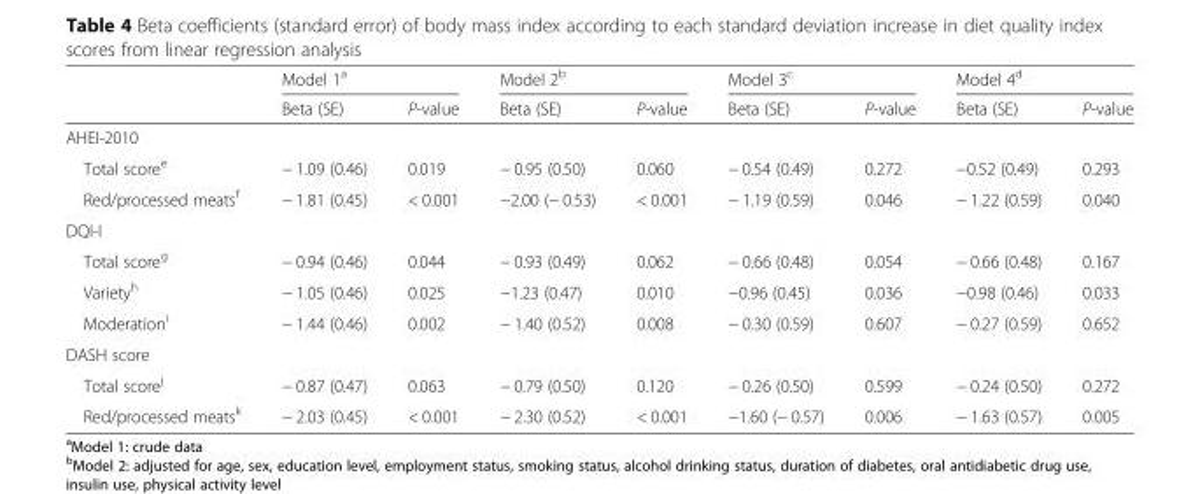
<table><thead><tr><td rowspan="2"></td><td colspan="2">Model 1<sup>a</sup></td><td colspan="2">Model 2<sup>b</sup></td><td colspan="2">Model 3<sup>c</sup></td><td colspan="2">Model 4<sup>d</sup></td></tr><tr><td>Beta (SE)</td><td>P-value</td><td>Beta (SE)</td><td>P-value</td><td>Beta (SE)</td><td>P-value</td><td>Beta (SE)</td><td>P-value</td></tr></thead><tbody><tr><td colspan="9">AHEI-2010</td></tr><tr><td>Total score<sup>e</sup></td><td>− 1.09 (0.46)</td><td>0.019</td><td>− 0.95 (0.50)</td><td>0.060</td><td>− 0.54 (0.49)</td><td>0.272</td><td>−0.52 (0.49)</td><td>0.293</td></tr><tr><td>Red/processed meats<sup>f</sup></td><td>− 1.81 (0.45)</td><td>&lt; 0.001</td><td>−2.00 (− 0.53)</td><td>&lt; 0.001</td><td>− 1.19 (0.59)</td><td>0.046</td><td>− 1.22 (0.59)</td><td>0.040</td></tr><tr><td colspan="9">DQI-I</td></tr><tr><td>Total score<sup>g</sup></td><td>− 0.94 (0.46)</td><td>0.044</td><td>− 0.93 (0.49)</td><td>0.062</td><td>− 0.66 (0.48)</td><td>0.054</td><td>− 0.66 (0.48)</td><td>0.167</td></tr><tr><td>Variety<sup>h</sup></td><td>− 1.05 (0.46)</td><td>0.025</td><td>−1.23 (0.47)</td><td>0.010</td><td>−0.96 (0.45)</td><td>0.036</td><td>−0.98 (0.46)</td><td>0.033</td></tr><tr><td>Moderation<sup>i</sup></td><td>− 1.44 (0.46)</td><td>0.002</td><td>− 1.40 (0.52)</td><td>0.008</td><td>− 0.30 (0.59)</td><td>0.607</td><td>− 0.27 (0.59)</td><td>0.652</td></tr><tr><td colspan="9">DASH score</td></tr><tr><td>Total score<sup>j</sup></td><td>− 0.87 (0.47)</td><td>0.063</td><td>− 0.79 (0.50)</td><td>0.120</td><td>− 0.26 (0.50)</td><td>0.599</td><td>− 0.24 (0.50)</td><td>0.272</td></tr><tr><td>Red/processed meats<sup>k</sup></td><td>− 2.03 (0.45)</td><td>&lt; 0.001</td><td>− 2.30 (0.52)</td><td>&lt; 0.001</td><td>−1.60 (− 0.57)</td><td>0.006</td><td>− 1.63 (0.57)</td><td>0.005</td></tr></tbody></table>